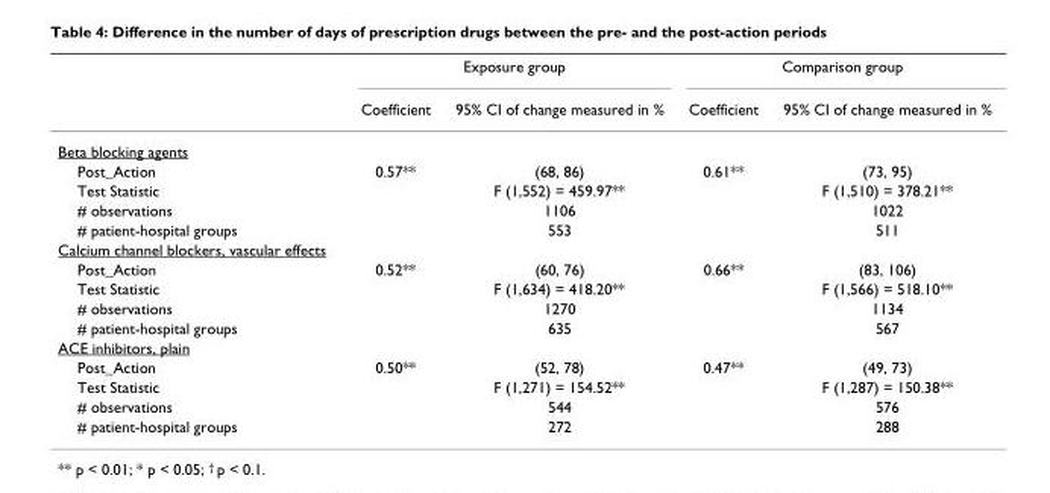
<table><thead><tr><td rowspan="2"></td><td colspan="2">Exposure group</td><td colspan="2">Comparison group</td></tr><tr><td>Coefficient</td><td>95% CI of change measured in %</td><td>Coefficient</td><td>95% CI of change measured in %</td></tr></thead><tbody><tr><td colspan="5">Beta blocking agents</td></tr><tr><td>Post_Action</td><td>0.57**</td><td>(68, 86)</td><td>0.61**</td><td>(73, 95)</td></tr><tr><td>Test Statistic</td><td></td><td>F (1,552) = 459.97**</td><td></td><td>F (1,510) = 378.21**</td></tr><tr><td># observations</td><td></td><td>1106</td><td></td><td>1022</td></tr><tr><td># patient-hospital groups</td><td></td><td>553</td><td></td><td>511</td></tr><tr><td colspan="5">Calcium channel blockers, vascular effects</td></tr><tr><td>Post_Action</td><td>0.52**</td><td>(60, 76)</td><td>0.66**</td><td>(83, 106)</td></tr><tr><td>Test Statistic</td><td></td><td>F (1,634) = 418.20**</td><td></td><td>F (1,566) = 518.10**</td></tr><tr><td># observations</td><td></td><td>1270</td><td></td><td>1134</td></tr><tr><td># patient-hospital groups</td><td></td><td>635</td><td></td><td>567</td></tr><tr><td colspan="5">ACE inhibitors, plain</td></tr><tr><td>Post_Action</td><td>0.50**</td><td>(52, 78)</td><td>0.47**</td><td>(49, 73)</td></tr><tr><td>Test Statistic</td><td></td><td>F (1,271) = 154.52**</td><td></td><td>F (1,287) = 150.38**</td></tr><tr><td># observations</td><td></td><td>544</td><td></td><td>576</td></tr><tr><td># patient-hospital groups</td><td></td><td>272</td><td></td><td>288</td></tr></tbody></table>